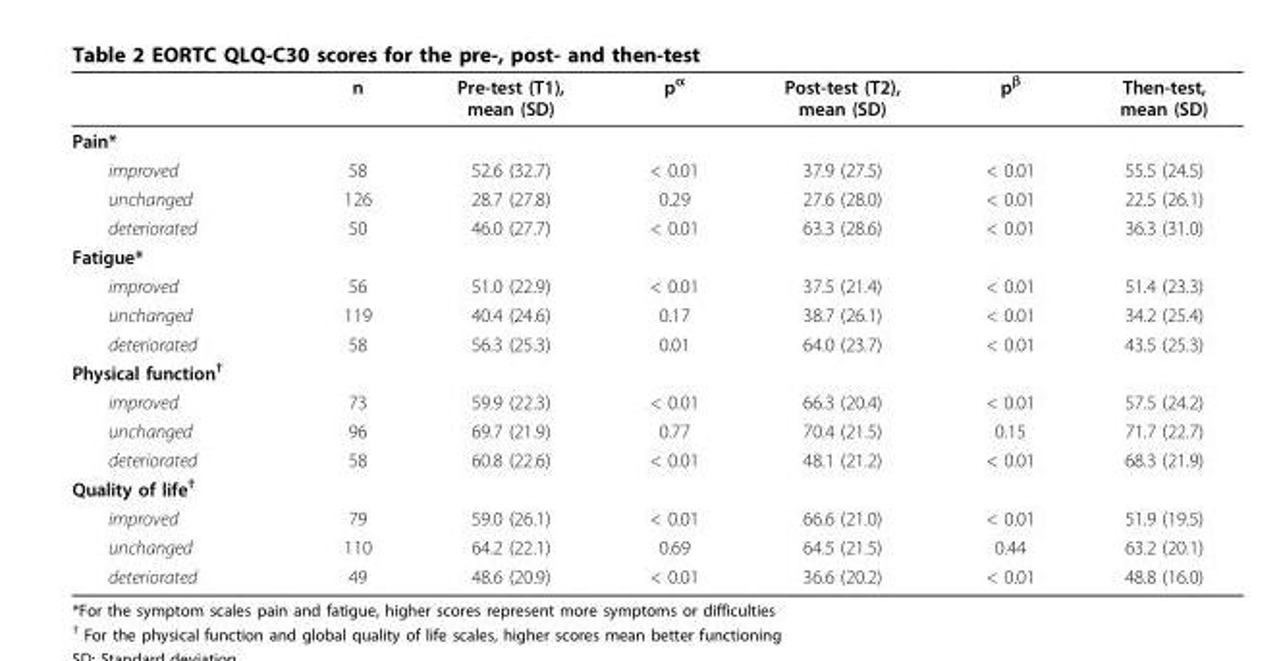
<table><thead><tr><td></td><td>n</td><td>Pre-test (T1), mean (SD)</td><td>p<sup>α</sup></td><td>Post-test (T2), mean (SD)</td><td>p<sup>β</sup></td><td>Then-test, mean (SD)</td></tr></thead><tbody><tr><td colspan="7">Pain*</td></tr><tr><td>improved</td><td>58</td><td>52.6 (32.7)</td><td>&lt; 0.01</td><td>37.9 (27.5)</td><td>&lt; 0.01</td><td>55.5 (24.5)</td></tr><tr><td>unchanged</td><td>126</td><td>28.7 (27.8)</td><td>0.29</td><td>27.6 (28.0)</td><td>&lt; 0.01</td><td>22.5 (26.1)</td></tr><tr><td>deteriorated</td><td>50</td><td>46.0 (27.7)</td><td>&lt; 0.01</td><td>63.3 (28.6)</td><td>&lt; 0.01</td><td>36.3 (31.0)</td></tr><tr><td colspan="7">Fatigue*</td></tr><tr><td>improved</td><td>56</td><td>51.0 (22.9)</td><td>&lt; 0.01</td><td>37.5 (21.4)</td><td>&lt; 0.01</td><td>51.4 (23.3)</td></tr><tr><td>unchanged</td><td>119</td><td>40.4 (24.6)</td><td>0.17</td><td>38.7 (26.1)</td><td>&lt; 0.01</td><td>34.2 (25.4)</td></tr><tr><td>deteriorated</td><td>58</td><td>56.3 (25.3)</td><td>0.01</td><td>64.0 (23.7)</td><td>&lt; 0.01</td><td>43.5 (25.3)</td></tr><tr><td colspan="7">Physical function<sup>†</sup></td></tr><tr><td>improved</td><td>73</td><td>59.9 (22.3)</td><td>&lt; 0.01</td><td>66.3 (20.4)</td><td>&lt; 0.01</td><td>57.5 (24.2)</td></tr><tr><td>unchanged</td><td>96</td><td>69.7 (21.9)</td><td>0.77</td><td>70.4 (21.5)</td><td>0.15</td><td>71.7 (22.7)</td></tr><tr><td>deteriorated</td><td>58</td><td>60.8 (22.6)</td><td>&lt; 0.01</td><td>48.1 (21.2)</td><td>&lt; 0.01</td><td>68.3 (21.9)</td></tr><tr><td colspan="7">Quality of life<sup>†</sup></td></tr><tr><td>improved</td><td>79</td><td>59.0 (26.1)</td><td>&lt; 0.01</td><td>66.6 (21.0)</td><td>&lt; 0.01</td><td>51.9 (19.5)</td></tr><tr><td>unchanged</td><td>110</td><td>64.2 (22.1)</td><td>0.69</td><td>64.5 (21.5)</td><td>0.44</td><td>63.2 (20.1)</td></tr><tr><td>deteriorated</td><td>49</td><td>48.6 (20.9)</td><td>&lt; 0.01</td><td>36.6 (20.2)</td><td>&lt; 0.01</td><td>48.8 (16.0)</td></tr></tbody></table>